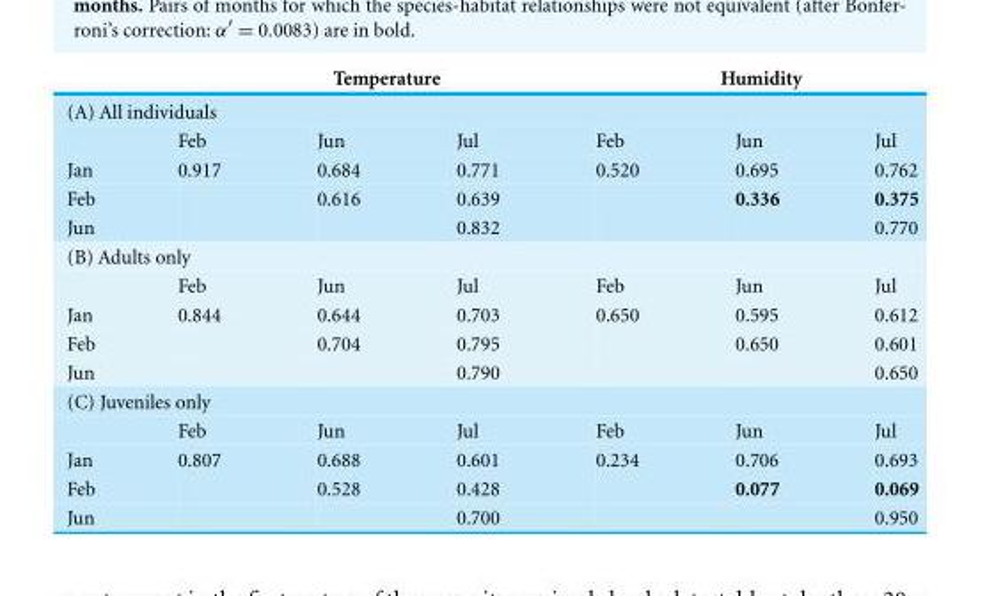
<table><thead><tr><td></td><td colspan="3">Temperature</td><td colspan="3">Humidity</td></tr><tr><td colspan="7">(A) All individuals</td></tr><tr><td></td><td>Feb</td><td>Jun</td><td>Jul</td><td>Feb</td><td>Jun</td><td>Jul</td></tr></thead><tbody><tr><td>Jan</td><td>0.917</td><td>0.684</td><td>0.771</td><td>0.520</td><td>0.695</td><td>0.762</td></tr><tr><td>Feb</td><td></td><td>0.616</td><td>0.639</td><td></td><td>0.336</td><td>0.375</td></tr><tr><td>Jun</td><td></td><td></td><td>0.832</td><td></td><td></td><td>0.770</td></tr><tr><td colspan="7">(B) Adults only</td></tr><tr><td></td><td>Feb</td><td>Jun</td><td>Jul</td><td>Feb</td><td>Jun</td><td>Jul</td></tr><tr><td>Jan</td><td>0.844</td><td>0.644</td><td>0.703</td><td>0.650</td><td>0.595</td><td>0.612</td></tr><tr><td>Feb</td><td></td><td>0.704</td><td>0.795</td><td></td><td>0.650</td><td>0.601</td></tr><tr><td>Jun</td><td></td><td></td><td>0.790</td><td></td><td></td><td>0.650</td></tr><tr><td colspan="7">(C) Juveniles only</td></tr><tr><td></td><td>Feb</td><td>Jun</td><td>Jul</td><td>Feb</td><td>Jun</td><td>Jul</td></tr><tr><td>Jan</td><td>0.807</td><td>0.688</td><td>0.601</td><td>0.234</td><td>0.706</td><td>0.693</td></tr><tr><td>Feb</td><td></td><td>0.528</td><td>0.428</td><td></td><td>0.077</td><td>0.069</td></tr><tr><td>Jun</td><td></td><td></td><td>0.700</td><td></td><td></td><td>0.950</td></tr></tbody></table>